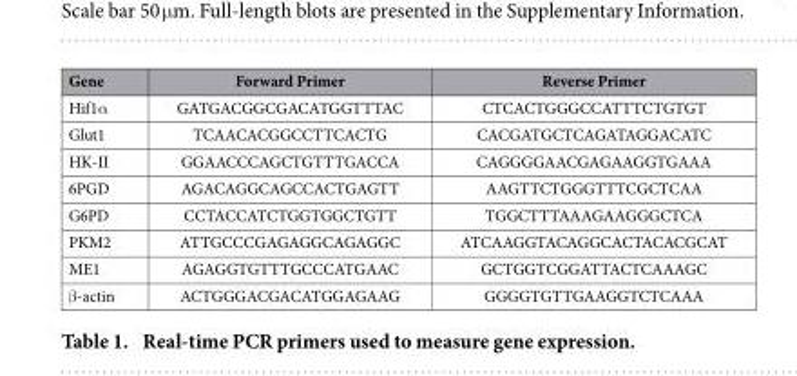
<table><thead><tr><td>Gene</td><td>Forward Primer</td><td>Reverse Primer</td></tr></thead><tbody><tr><td>Hif1α</td><td>GATGACGGCGACATGGTTTAC</td><td>CTCACTGGGCCATTTCTGTGT</td></tr><tr><td>Glut1</td><td>TCAACACGGCCTTCACTG</td><td>CACGATGCTCAGATAGGACATC</td></tr><tr><td>HK-II</td><td>GGAACCCAGCTGTTTGACCA</td><td>CAGGGGAACGAGAAGGTGAAA</td></tr><tr><td>6PGD</td><td>AGACAGGCAGCCACTGAGTT</td><td>AAGTTCTGGGTTTCGCTCAA</td></tr><tr><td>G6PD</td><td>CCTACCATCTGGTGGCTGTT</td><td>TGGCTTTAAAGAAGGGCTCA</td></tr><tr><td>PKM2</td><td>ATTGCCCGAGAGGCAGAGGC</td><td>ATCAAGGTACAGGCACTACACGCAT</td></tr><tr><td>ME1</td><td>AGAGGTGTTTGCCCATGAAC</td><td>GCTGGTCGGATTACTCAAAGC</td></tr><tr><td>β -actin</td><td>ACTGGGACGACATGGAGAAG</td><td>GGGGTGTTGAAGGTCTCAAA</td></tr></tbody></table>